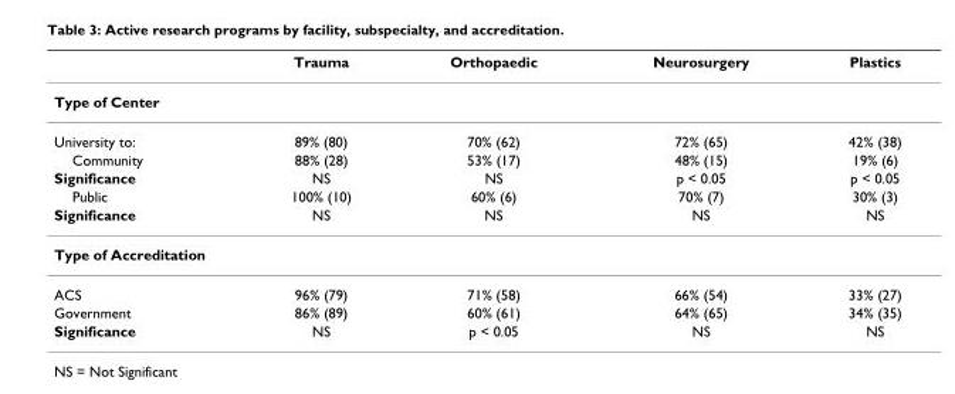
<table><thead><tr><td></td><td>Trauma</td><td>Orthopaedic</td><td>Neurosurgery</td><td>Plastics</td></tr></thead><tbody><tr><td colspan="5">Type of Center</td></tr><tr><td>University to:</td><td>89% (80)</td><td>70% (62)</td><td>72% (65)</td><td>42% (38)</td></tr><tr><td>Community</td><td>88% (28)</td><td>53% (17)</td><td>48% (15)</td><td>19% (6)</td></tr><tr><td>Significance</td><td>NS</td><td>NS</td><td>p &lt; 0.05</td><td>p &lt; 0.05</td></tr><tr><td>Public</td><td>100% (10)</td><td>60% (6)</td><td>70% (7)</td><td>30% (3)</td></tr><tr><td>Significance</td><td>NS</td><td>NS</td><td>NS</td><td>NS</td></tr><tr><td colspan="5">Type of Accreditation</td></tr><tr><td>ACS</td><td>96% (79)</td><td>71% (58)</td><td>66% (54)</td><td>33% (27)</td></tr><tr><td>Government</td><td>86% (89)</td><td>60% (61)</td><td>64% (65)</td><td>34% (35)</td></tr><tr><td>Significance</td><td>NS</td><td>p &lt; 0.05</td><td>NS</td><td>NS</td></tr></tbody></table>